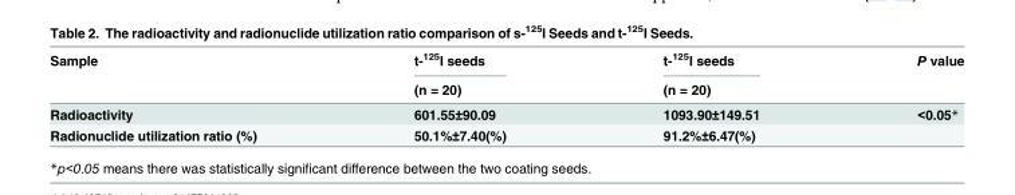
<table><thead><tr><td rowspan="2">Sample</td><td rowspan="2">t-<sup>125</sup>I seeds (n = 20)</td><td rowspan="2">t-<sup>125</sup>I seeds (n = 20)</td><td rowspan="2">P value</td></tr><tr></tr></thead><tbody><tr><td>Radioactivity</td><td>601.55±90.09</td><td>1093.90±149.51</td><td>&lt;0.05*</td></tr><tr><td>Radionuclide utilization ratio (%)</td><td>50.1%±7.40(%)</td><td>91.2%±6.47(%)</td><td></td></tr></tbody></table>